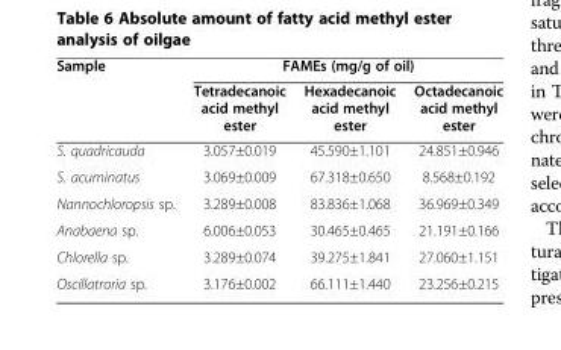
<table><thead><tr><td rowspan="2">Sample</td><td colspan="3">FAMEs (mg/g of oil)</td></tr><tr><td>Tetradecanoic acid methyl ester</td><td>Hexadecanoic acid methyl ester</td><td>Octadecanoic acid methyl ester</td></tr></thead><tbody><tr><td>S. quadricauda</td><td>3.057±0.019</td><td>45.590±1.101</td><td>24.851±0.946</td></tr><tr><td>S. acuminatus</td><td>3.069±0.009</td><td>67.318±0.650</td><td>8.568±0.192</td></tr><tr><td>Nannochloropsis sp.</td><td>3.289±0.008</td><td>83.836±1.068</td><td>36.969±0.349</td></tr><tr><td>Anabaena sp.</td><td>6.006±0.053</td><td>30.465±0.465</td><td>21.191±0.166</td></tr><tr><td>Chlorella sp.</td><td>3.289±0.074</td><td>39.275±1.841</td><td>27.060±1.151</td></tr><tr><td>Oscillatroria sp.</td><td>3.176±0.002</td><td>66.111±1.440</td><td>23.256±0.215</td></tr></tbody></table>